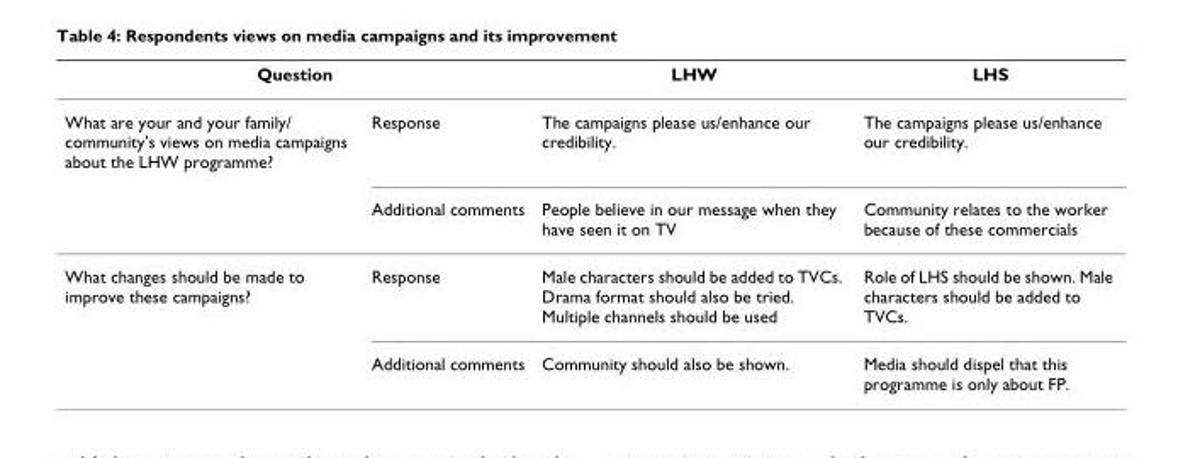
<table><thead><tr><td colspan="2">Question</td><td rowspan="2">LHW The campaigns please us/enhance our credibility.</td><td rowspan="2">LHS The campaigns please us/enhance our credibility.</td></tr><tr><td>What are your and your family/ community&#x27;s views on media campaigns about the LHW programme?</td><td>Response</td></tr></thead><tbody><tr><td></td><td>Additional comments</td><td>People believe in our message when they have seen it on TV</td><td>Community relates to the worker because of these commercials</td></tr><tr><td rowspan="2">What changes should be made to improve these campaigns?</td><td>Response</td><td>Male characters should be added to TVCs. Drama format should also be tried. Multiple channels should be used</td><td>Role of LHS should be shown. Male characters should be added to TVCs.</td></tr><tr><td>Additional comments</td><td>Community should also be shown.</td><td>Media should dispel that this programme is only about FP.</td></tr></tbody></table>